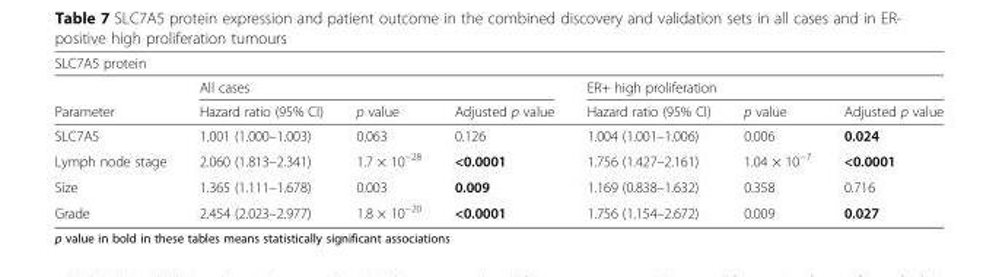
<table><thead><tr><td colspan="7">SLC7A5 protein</td></tr><tr><td rowspan="2">Parameter</td><td colspan="3">All cases</td><td colspan="3">ER+ high proliferation</td></tr><tr><td>Hazard ratio (95% CI)</td><td>p value</td><td>Adjusted p value</td><td>Hazard ratio (95% CI)</td><td>p value</td><td>Adjusted p value</td></tr></thead><tbody><tr><td>SLC7A5</td><td>1.001 (1.000–1.003)</td><td>0.063</td><td>0.126</td><td>1.004 (1.001–1.006)</td><td>0.006</td><td>0.024</td></tr><tr><td>Lymph node stage</td><td>2.060 (1.813–2.341)</td><td>1.7 × 10<sup>−28</sup></td><td>&lt;0.0001</td><td>1.756 (1.427–2.161)</td><td>1.04 × 10<sup>−7</sup></td><td>&lt;0.0001</td></tr><tr><td>Size</td><td>1.365 (1.111–1.678)</td><td>0.003</td><td>0.009</td><td>1.169 (0.838–1.632)</td><td>0.358</td><td>0.716</td></tr><tr><td>Grade</td><td>2.454 (2.023–2.977)</td><td>1.8 × 10<sup>−20</sup></td><td>&lt;0.0001</td><td>1.756 (1.154–2.672)</td><td>0.009</td><td>0.027</td></tr></tbody></table>